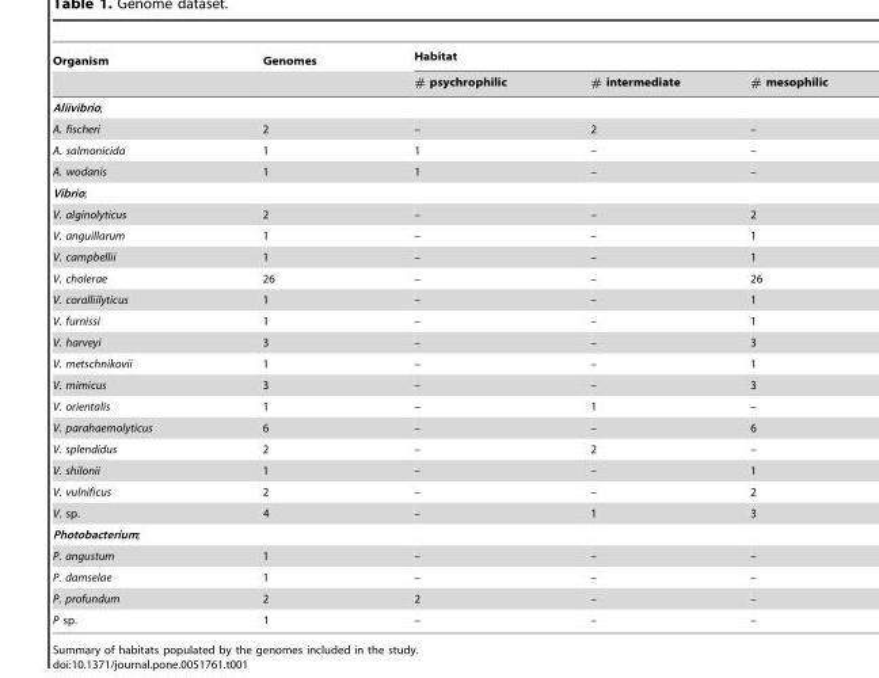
<table><thead><tr><td rowspan="2">Organism</td><td rowspan="2">Genomes</td><td colspan="3">Habitat</td></tr><tr><td># psychrophilic</td><td># intermediate</td><td># mesophilic</td></tr></thead><tbody><tr><td colspan="5">Aliivibrio;</td></tr><tr><td>A. fischeri</td><td>2</td><td>–</td><td>2</td><td>–</td></tr><tr><td>A. salmonicida</td><td>1</td><td>1</td><td>–</td><td>–</td></tr><tr><td>A. wodanis</td><td>1</td><td>1</td><td>–</td><td>–</td></tr><tr><td colspan="5">Vibrio;</td></tr><tr><td>V. alginolyticus</td><td>2</td><td>–</td><td>–</td><td>2</td></tr><tr><td>V. anguillarum</td><td>1</td><td>–</td><td>–</td><td>1</td></tr><tr><td>V. campbellii</td><td>1</td><td>–</td><td>–</td><td>1</td></tr><tr><td>V. cholerae</td><td>26</td><td>–</td><td>–</td><td>26</td></tr><tr><td>V. coralliilyticus</td><td>1</td><td>–</td><td>–</td><td>1</td></tr><tr><td>V. furnissi</td><td>1</td><td>–</td><td>–</td><td>1</td></tr><tr><td>V. harveyi</td><td>3</td><td>–</td><td>–</td><td>3</td></tr><tr><td>V. metschnikovii</td><td>1</td><td>–</td><td>–</td><td>1</td></tr><tr><td>V. mimicus</td><td>3</td><td>–</td><td>–</td><td>3</td></tr><tr><td>V. orientalis</td><td>1</td><td>–</td><td>1</td><td>–</td></tr><tr><td>V. parahaemolyticus</td><td>6</td><td>–</td><td>–</td><td>6</td></tr><tr><td>V. splendidus</td><td>2</td><td>–</td><td>2</td><td>–</td></tr><tr><td>V. shilonii</td><td>1</td><td>–</td><td>–</td><td>1</td></tr><tr><td>V. vulnificus</td><td>2</td><td>–</td><td>–</td><td>2</td></tr><tr><td>V. sp.</td><td>4</td><td>–</td><td>1</td><td>3</td></tr><tr><td colspan="5">Photobacterium;</td></tr><tr><td>P. angustum</td><td>1</td><td>–</td><td>–</td><td>–</td></tr><tr><td>P. damselae</td><td>1</td><td>–</td><td>–</td><td>–</td></tr><tr><td>P. profundum</td><td>2</td><td>2</td><td>–</td><td>–</td></tr><tr><td>P sp.</td><td>1</td><td>–</td><td>–</td><td>–</td></tr></tbody></table>